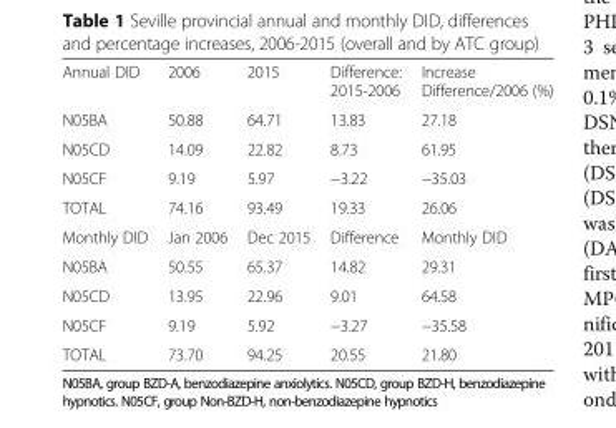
<table><tbody><tr><td>Annual DID</td><td>2006</td><td>2015</td><td>Difference: 2015-2006</td><td>Increase Difference/2006 (%)</td></tr><tr><td>N05BA</td><td>50.88</td><td>64.71</td><td>13.83</td><td>27.18</td></tr><tr><td>N05CD</td><td>14.09</td><td>22.82</td><td>8.73</td><td>61.95</td></tr><tr><td>N05CF</td><td>9.19</td><td>5.97</td><td>−3.22</td><td>−35.03</td></tr><tr><td>TOTAL</td><td>74.16</td><td>93.49</td><td>19.33</td><td>26.06</td></tr><tr><td>Monthly DID</td><td>Jan 2006</td><td>Dec 2015</td><td>Difference</td><td>Monthly DID</td></tr><tr><td>N05BA</td><td>50.55</td><td>65.37</td><td>14.82</td><td>29.31</td></tr><tr><td>N05CD</td><td>13.95</td><td>22.96</td><td>9.01</td><td>64.58</td></tr><tr><td>N05CF</td><td>9.19</td><td>5.92</td><td>−3.27</td><td>−35.58</td></tr><tr><td>TOTAL</td><td>73.70</td><td>94.25</td><td>20.55</td><td>21.80</td></tr></tbody></table>